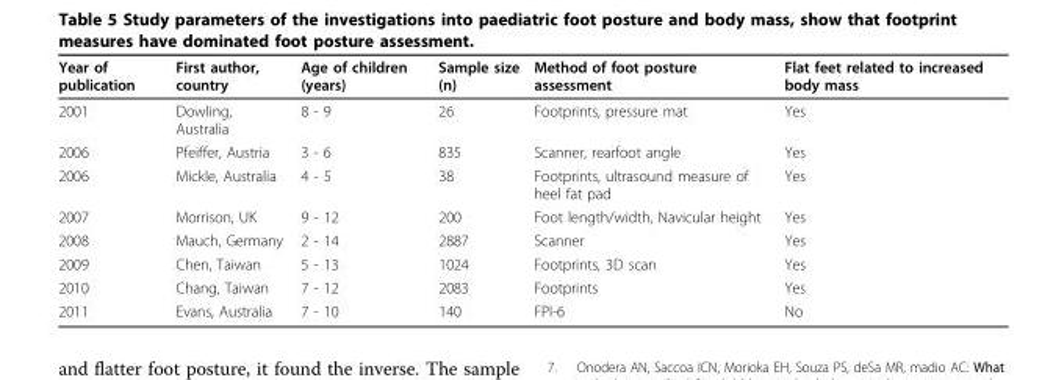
<table><thead><tr><td>Year of publication</td><td>First author, country</td><td>Age of children (years)</td><td>Sample size (n)</td><td>Method of foot posture assessment</td><td>Flat feet related to increased body mass</td></tr></thead><tbody><tr><td>2001</td><td>Dowling, Australia</td><td>8 - 9</td><td>26</td><td>Footprints, pressure mat</td><td>Yes</td></tr><tr><td>2006</td><td>Pfeiffer, Austria</td><td>3 - 6</td><td>835</td><td>Scanner, rearfoot angle</td><td>Yes</td></tr><tr><td>2006</td><td>Mickle, Australia</td><td>4 - 5</td><td>38</td><td>Footprints, ultrasound measure of heel fat pad</td><td>Yes</td></tr><tr><td>2007</td><td>Morrison, UK</td><td>9 - 12</td><td>200</td><td>Foot length/width, Navicular height</td><td>Yes</td></tr><tr><td>2008</td><td>Mauch, Germany</td><td>2 - 14</td><td>2887</td><td>Scanner</td><td>Yes</td></tr><tr><td>2009</td><td>Chen, Taiwan</td><td>5 - 13</td><td>1024</td><td>Footprints, 3D scan</td><td>Yes</td></tr><tr><td>2010</td><td>Chang, Taiwan</td><td>7 - 12</td><td>2083</td><td>Footprints</td><td>Yes</td></tr><tr><td>2011</td><td>Evans, Australia</td><td>7 - 10</td><td>140</td><td>FPI-6</td><td>No</td></tr></tbody></table>